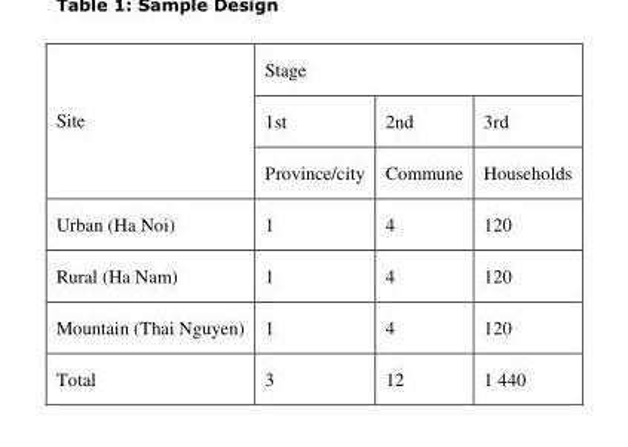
<table><thead><tr><td rowspan="3">Site</td><td colspan="3">Stage</td></tr><tr><td rowspan="2">1st Province/city</td><td rowspan="2">2nd Commune</td><td rowspan="2">3rd Households</td></tr><tr></tr></thead><tbody><tr><td>Urban (Ha Noi)</td><td>1</td><td>4</td><td>120</td></tr><tr><td>Rural (Ha Nam)</td><td>1</td><td>4</td><td>120</td></tr><tr><td>Mountain (Thai Nguyen)</td><td>1</td><td>4</td><td>120</td></tr><tr><td>Total</td><td>3</td><td>12</td><td>1 440</td></tr></tbody></table>